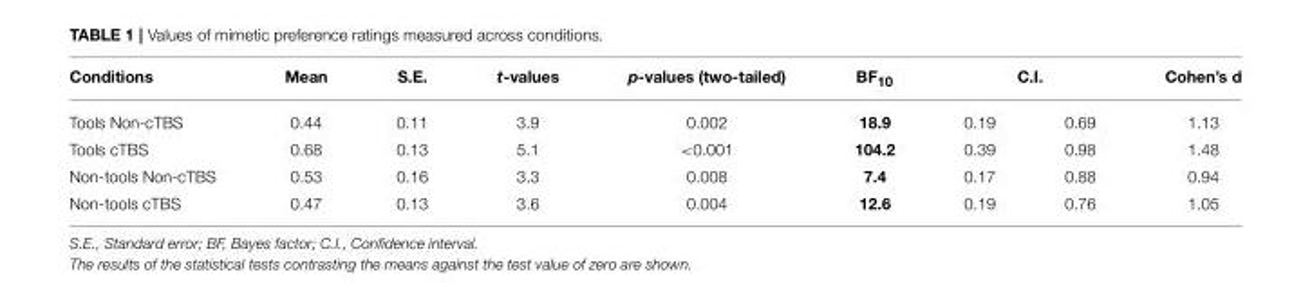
<table><thead><tr><td rowspan="2">Conditions Tools Non-cTBS</td><td rowspan="2">Mean 0.44</td><td rowspan="2">S.E. 0.11</td><td rowspan="2">t-values 3.9</td><td rowspan="2">p-values (two-tailed) 0.002</td><td rowspan="2">BF<sub>10</sub> 18.9</td><td colspan="2">C.I.</td><td rowspan="2">Cohen’s d 1.13</td></tr><tr><td>0.19</td><td>0.69</td></tr></thead><tbody><tr><td>Tools cTBS</td><td>0.68</td><td>0.13</td><td>5.1</td><td>&lt;0.001</td><td>104.2</td><td>0.39</td><td>0.98</td><td>1.48</td></tr><tr><td>Non-tools Non-cTBS</td><td>0.53</td><td>0.16</td><td>3.3</td><td>0.008</td><td>7.4</td><td>0.17</td><td>0.88</td><td>0.94</td></tr><tr><td>Non-tools cTBS</td><td>0.47</td><td>0.13</td><td>3.6</td><td>0.004</td><td>12.6</td><td>0.19</td><td>0.76</td><td>1.05</td></tr></tbody></table>